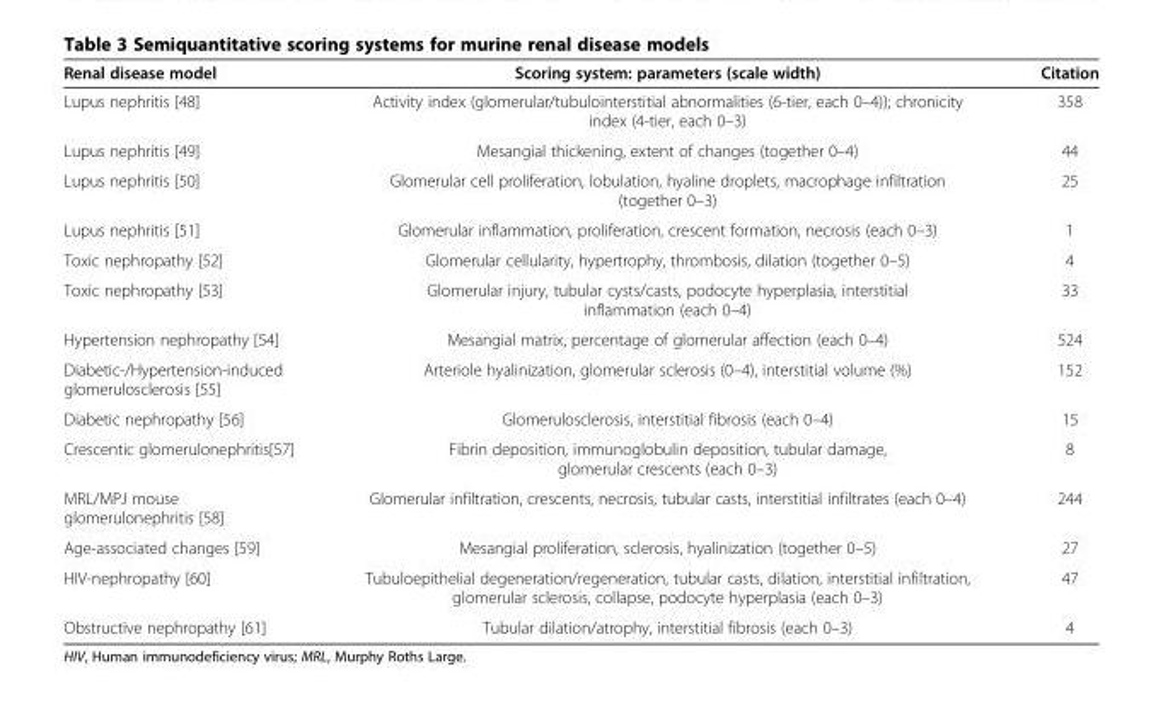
<table><thead><tr><td>Renal disease model</td><td>Scoring system: parameters (scale width)</td><td>Citation</td></tr></thead><tbody><tr><td>Lupus nephritis [48]</td><td>Activity index (glomerular/tubulointerstitial abnormalities (6-tier, each 0–4)); chronicity index (4-tier, each 0–3)</td><td>358</td></tr><tr><td>Lupus nephritis [49]</td><td>Mesangial thickening, extent of changes (together 0–4)</td><td>44</td></tr><tr><td>Lupus nephritis [50]</td><td>Glomerular cell proliferation, lobulation, hyaline droplets, macrophage infiltration (together 0–3)</td><td>25</td></tr><tr><td>Lupus nephritis [51]</td><td>Glomerular inflammation, proliferation, crescent formation, necrosis (each 0–3)</td><td>1</td></tr><tr><td>Toxic nephropathy [52]</td><td>Glomerular cellularity, hypertrophy, thrombosis, dilation (together 0–5)</td><td>4</td></tr><tr><td>Toxic nephropathy [53]</td><td>Glomerular injury, tubular cysts/casts, podocyte hyperplasia, interstitial inflammation (each 0–4)</td><td>33</td></tr><tr><td>Hypertension nephropathy [54]</td><td>Mesangial matrix, percentage of glomerular affection (each 0–4)</td><td>524</td></tr><tr><td>Diabetic-/Hypertension-induced glomerulosclerosis [55]</td><td>Arteriole hyalinization, glomerular sclerosis (0–4), interstitial volume (%)</td><td>152</td></tr><tr><td>Diabetic nephropathy [56]</td><td>Glomerulosclerosis, interstitial fibrosis (each 0–4)</td><td>15</td></tr><tr><td>Crescentic glomerulonephritis[57]</td><td>Fibrin deposition, immunoglobulin deposition, tubular damage, glomerular crescents (each 0–3)</td><td>8</td></tr><tr><td>MRL/MPJ mouse glomerulonephritis [58]</td><td>Glomerular infiltration, crescents, necrosis, tubular casts, interstitial infiltrates (each 0–4)</td><td>244</td></tr><tr><td>Age-associated changes [59]</td><td>Mesangial proliferation, sclerosis, hyalinization (together 0–5)</td><td>27</td></tr><tr><td>HIV-nephropathy [60]</td><td>Tubuloepithelial degeneration/regeneration, tubular casts, dilation, interstitial infiltration, glomerular sclerosis, collapse, podocyte hyperplasia (each 0–3)</td><td>47</td></tr><tr><td>Obstructive nephropathy [61]</td><td>Tubular dilation/atrophy, interstitial fibrosis (each 0–3)</td><td>4</td></tr></tbody></table>